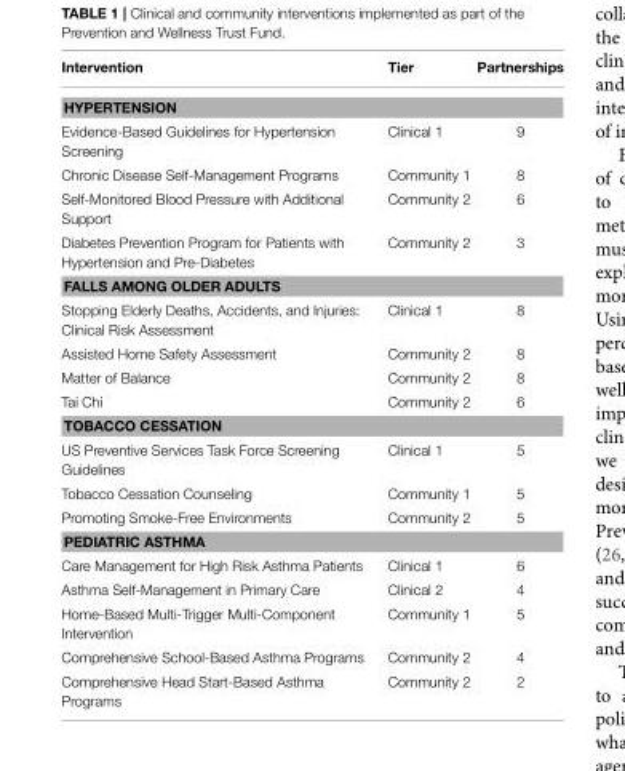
<table><thead><tr><td>Intervention</td><td>Tier</td><td>Partnerships</td></tr></thead><tbody><tr><td colspan="3">HYPERTENSION</td></tr><tr><td>Evidence-Based Guidelines for Hypertension Screening</td><td>Clinical 1</td><td>9</td></tr><tr><td>Chronic Disease Self-Management Programs</td><td>Community 1</td><td>8</td></tr><tr><td>Self-Monitored Blood Pressure with Additional Support</td><td>Community 2</td><td>6</td></tr><tr><td>Diabetes Prevention Program for Patients with Hypertension and Pre-Diabetes</td><td>Community 2</td><td>3</td></tr><tr><td colspan="3">FALLS AMONG OLDER ADULTS</td></tr><tr><td>Stopping Elderly Deaths, Accidents, and Injuries: Clinical Risk Assessment</td><td>Clinical 1</td><td>8</td></tr><tr><td>Assisted Home Safety Assessment</td><td>Community 2</td><td>8</td></tr><tr><td>Matter of Balance</td><td>Community 2</td><td>8</td></tr><tr><td>Tai Chi</td><td>Community 2</td><td>6</td></tr><tr><td colspan="3">TOBACCO CESSATION</td></tr><tr><td>US Preventive Services Task Force Screening Guidelines</td><td>Clinical 1</td><td>5</td></tr><tr><td>Tobacco Cessation Counseling</td><td>Community 1</td><td>5</td></tr><tr><td>Promoting Smoke-Free Environments</td><td>Community 2</td><td>5</td></tr><tr><td colspan="3">PEDIATRIC ASTHMA</td></tr><tr><td>Care Management for High Risk Asthma Patients</td><td>Clinical 1</td><td>6</td></tr><tr><td>Asthma Self-Management in Primary Care</td><td>Clinical 2</td><td>4</td></tr><tr><td>Home-Based Multi-Trigger Multi-Component Intervention</td><td>Community 1</td><td>5</td></tr><tr><td>Comprehensive School-Based Asthma Programs</td><td>Community 2</td><td>4</td></tr><tr><td>Comprehensive Head Start-Based Asthma Programs</td><td>Community 2</td><td>2</td></tr></tbody></table>